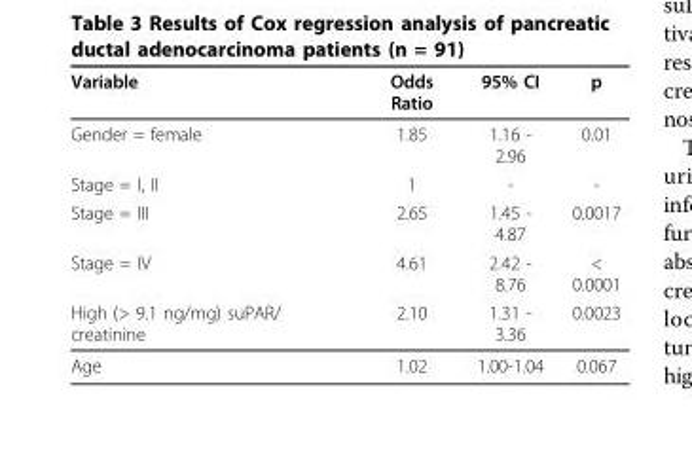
<table><thead><tr><td>Variable</td><td>Odds Ratio</td><td>95% CI</td><td>p</td></tr></thead><tbody><tr><td>Gender = female</td><td>1.85</td><td>1.16 - 2.96</td><td>0.01</td></tr><tr><td>Stage = I, II</td><td>1</td><td>-</td><td>-</td></tr><tr><td>Stage = III</td><td>2.65</td><td>1.45 - 4.87</td><td>0.0017</td></tr><tr><td>Stage = IV</td><td>4.61</td><td>2.42 - 8.76</td><td>&lt; 0.0001</td></tr><tr><td>High (&gt; 9.1 ng/mg) suPAR/ creatinine</td><td>2.10</td><td>1.31 - 3.36</td><td>0.0023</td></tr><tr><td>Age</td><td>1.02</td><td>1.00-1.04</td><td>0.067</td></tr></tbody></table>